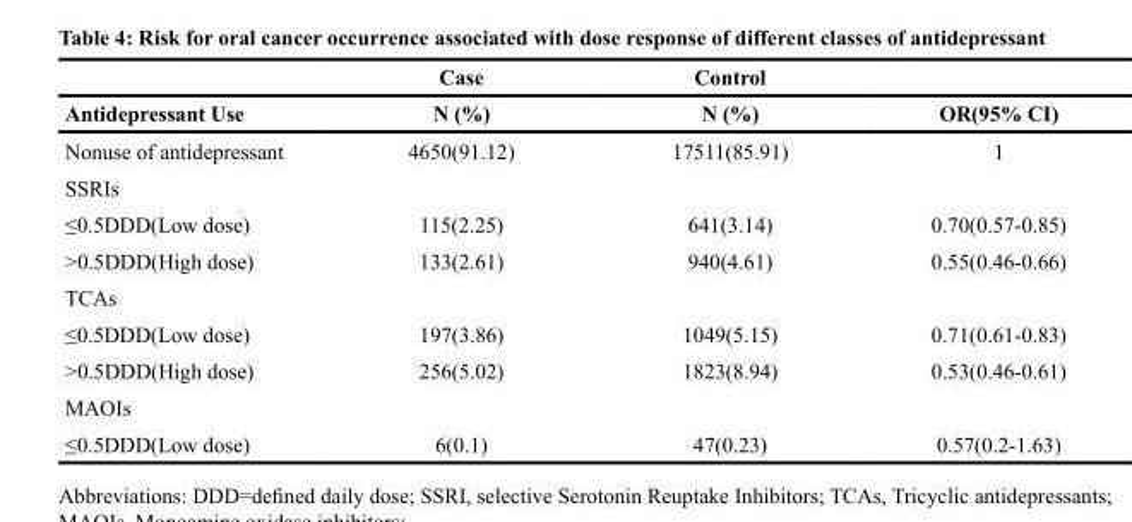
<table><thead><tr><td rowspan="2">Antidepressant Use</td><td rowspan="2">Case N (%)</td><td rowspan="2">Control N (%)</td><td rowspan="2">OR(95% CI)</td></tr><tr></tr></thead><tbody><tr><td>Nonuse of antidepressant</td><td>4650(91.12)</td><td>17511(85.91)</td><td>1</td></tr><tr><td colspan="4">SSRIs</td></tr><tr><td>≤0.5DDD(Low dose)</td><td>115(2.25)</td><td>641(3.14)</td><td>0.70(0.57-0.85)</td></tr><tr><td>&gt;0.5DDD(High dose)</td><td>133(2.61)</td><td>940(4.61)</td><td>0.55(0.46-0.66)</td></tr><tr><td colspan="4">TCAs</td></tr><tr><td>≤0.5DDD(Low dose)</td><td>197(3.86)</td><td>1049(5.15)</td><td>0.71(0.61-0.83)</td></tr><tr><td>&gt;0.5DDD(High dose)</td><td>256(5.02)</td><td>1823(8.94)</td><td>0.53(0.46-0.61)</td></tr><tr><td colspan="4">MAOIs</td></tr><tr><td>≤0.5DDD(Low dose)</td><td>6(0.1)</td><td>47(0.23)</td><td>0.57(0.2-1.63)</td></tr></tbody></table>